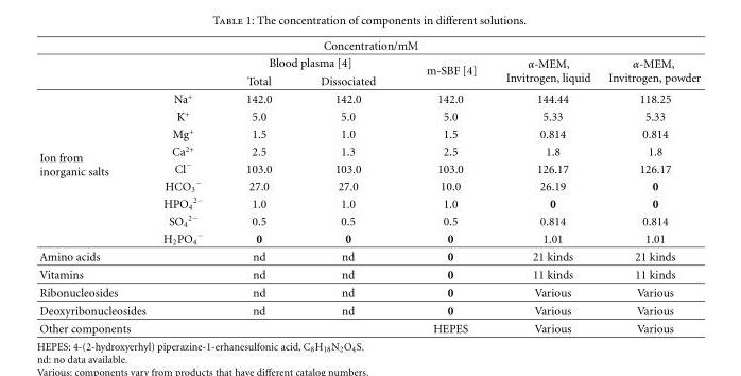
<table><thead><tr><td colspan="7">Concentration/mM</td></tr><tr><td rowspan="2"></td><td rowspan="2"></td><td colspan="2">Blood plasma [4]</td><td rowspan="2">m-SBF [4]</td><td rowspan="2">α-MEM, Invitrogen, liquid</td><td rowspan="2">α-MEM, Invitrogen, powder</td></tr><tr><td>Total</td><td>Dissociated</td></tr></thead><tbody><tr><td rowspan="9">Ion from inorganic salts</td><td>Na<sup>+</sup></td><td>142.0</td><td>142.0</td><td>142.0</td><td>144.44</td><td>118.25</td></tr><tr><td>K<sup>+</sup></td><td>5.0</td><td>5.0</td><td>5.0</td><td>5.33</td><td>5.33</td></tr><tr><td>Mg<sup>+</sup></td><td>1.5</td><td>1.0</td><td>1.5</td><td>0.814</td><td>0.814</td></tr><tr><td>Ca<sup>2+</sup></td><td>2.5</td><td>1.3</td><td>2.5</td><td>1.8</td><td>1.8</td></tr><tr><td>Cl<sup>−</sup></td><td>103.0</td><td>103.0</td><td>103.0</td><td>126.17</td><td>126.17</td></tr><tr><td>HCO<sub>3</sub> <sup>−</sup></td><td>27.0</td><td>27.0</td><td>10.0</td><td>26.19</td><td>0</td></tr><tr><td>HPO<sub>4</sub> <sup>2−</sup></td><td>1.0</td><td>1.0</td><td>1.0</td><td>0</td><td>0</td></tr><tr><td>SO<sub>4</sub> <sup>2−</sup></td><td>0.5</td><td>0.5</td><td>0.5</td><td>0.814</td><td>0.814</td></tr><tr><td>H<sub>2</sub>PO<sub>4</sub> <sup>−</sup></td><td>0</td><td>0</td><td>0</td><td>1.01</td><td>1.01</td></tr><tr><td>Amino acids</td><td></td><td>nd</td><td>nd</td><td>0</td><td>21 kinds</td><td>21 kinds</td></tr><tr><td>Vitamins</td><td></td><td>nd</td><td>nd</td><td>0</td><td>11 kinds</td><td>11 kinds</td></tr><tr><td>Ribonucleosides</td><td></td><td>nd</td><td>nd</td><td>0</td><td>Various</td><td>Various</td></tr><tr><td>Deoxyribonucleosides</td><td></td><td>nd</td><td>nd</td><td>0</td><td>Various</td><td>Various</td></tr><tr><td>Other components</td><td></td><td></td><td></td><td>HEPES</td><td>Various</td><td>Various</td></tr></tbody></table>